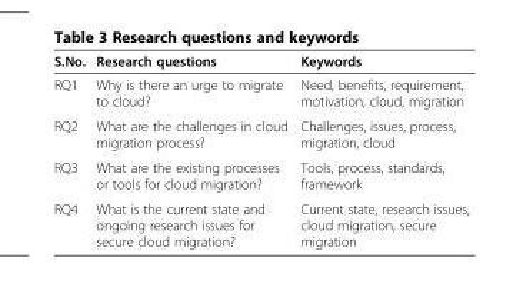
<table><thead><tr><td>S.No.</td><td>Research questions</td><td>Keywords</td></tr></thead><tbody><tr><td>RQ1</td><td>Why is there an urge to migrate to cloud?</td><td>Need, benefits, requirement, motivation, cloud, migration</td></tr><tr><td>RQ2</td><td>What are the challenges in cloud migration process?</td><td>Challenges, issues, process, migration, cloud</td></tr><tr><td>RQ3</td><td>What are the existing processes or tools for cloud migration?</td><td>Tools, process, standards, framework</td></tr><tr><td>RQ4</td><td>What is the current state and ongoing research issues for secure cloud migration?</td><td>Current state, research issues, cloud migration, secure migration</td></tr></tbody></table>